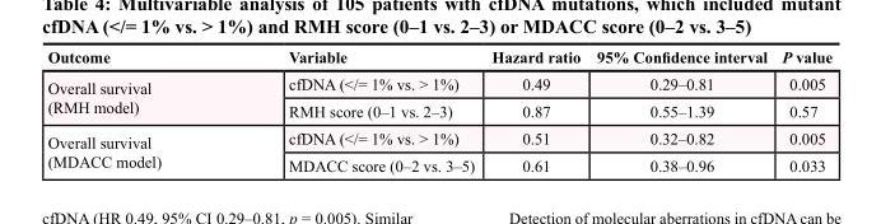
<table><thead><tr><td>Outcome</td><td>Variable</td><td>Hazard ratio</td><td>95% Confidence interval</td><td>P value</td></tr></thead><tbody><tr><td rowspan="2">Overall survival (RMH model)</td><td>cfDNA (&lt;/= 1% vs. &gt; 1%)</td><td>0.49</td><td>0.29–0.81</td><td>0.005</td></tr><tr><td>RMH score (0–1 vs. 2–3)</td><td>0.87</td><td>0.55–1.39</td><td>0.57</td></tr><tr><td rowspan="2">Overall survival (MDACC model)</td><td>cfDNA (&lt;/= 1% vs. &gt; 1%)</td><td>0.51</td><td>0.32–0.82</td><td>0.005</td></tr><tr><td>MDACC score (0–2 vs. 3–5)</td><td>0.61</td><td>0.38–0.96</td><td>0.033</td></tr></tbody></table>